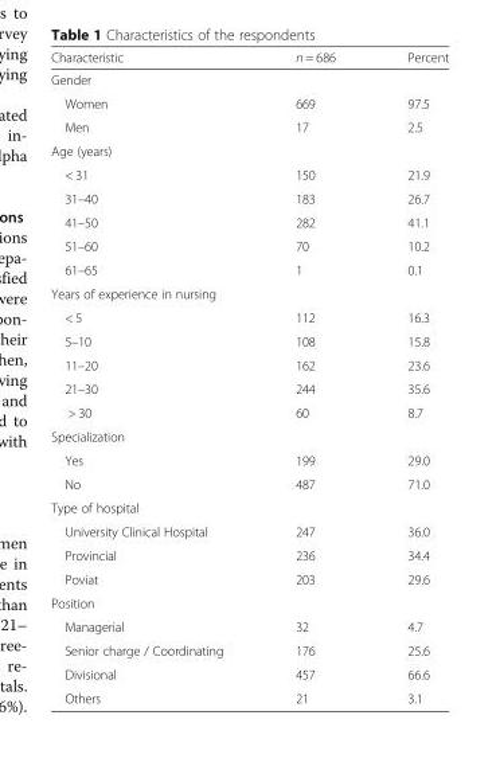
<table><thead><tr><td>Characteristic</td><td>n = 686</td><td>Percent</td></tr></thead><tbody><tr><td colspan="3">Gender</td></tr><tr><td>Women</td><td>669</td><td>97.5</td></tr><tr><td>Men</td><td>17</td><td>2.5</td></tr><tr><td colspan="3">Age (years)</td></tr><tr><td>&lt; 31</td><td>150</td><td>21.9</td></tr><tr><td>31–40</td><td>183</td><td>26.7</td></tr><tr><td>41–50</td><td>282</td><td>41.1</td></tr><tr><td>51–60</td><td>70</td><td>10.2</td></tr><tr><td>61–65</td><td>1</td><td>0.1</td></tr><tr><td colspan="3">Years of experience in nursing</td></tr><tr><td>&lt; 5</td><td>112</td><td>16.3</td></tr><tr><td>5–10</td><td>108</td><td>15.8</td></tr><tr><td>11–20</td><td>162</td><td>23.6</td></tr><tr><td>21–30</td><td>244</td><td>35.6</td></tr><tr><td>&gt; 30</td><td>60</td><td>8.7</td></tr><tr><td colspan="3">Specialization</td></tr><tr><td>Yes</td><td>199</td><td>29.0</td></tr><tr><td>No</td><td>487</td><td>71.0</td></tr><tr><td colspan="3">Type of hospital</td></tr><tr><td>University Clinical Hospital</td><td>247</td><td>36.0</td></tr><tr><td>Provincial</td><td>236</td><td>34.4</td></tr><tr><td>Poviat</td><td>203</td><td>29.6</td></tr><tr><td colspan="3">Position</td></tr><tr><td>Managerial</td><td>32</td><td>4.7</td></tr><tr><td>Senior charge / Coordinating</td><td>176</td><td>25.6</td></tr><tr><td>Divisional</td><td>457</td><td>66.6</td></tr><tr><td>Others</td><td>21</td><td>3.1</td></tr></tbody></table>